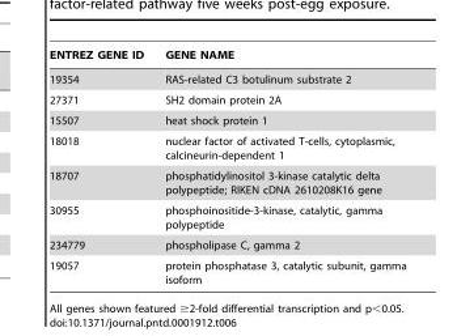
<table><thead><tr><td>ENTREZ GENE ID</td><td>GENE NAME</td></tr></thead><tbody><tr><td>19354</td><td>RAS-related C3 botulinum substrate 2</td></tr><tr><td>27371</td><td>SH2 domain protein 2A</td></tr><tr><td>15507</td><td>heat shock protein 1</td></tr><tr><td>18018</td><td>nuclear factor of activated T-cells, cytoplasmic, calcineurin-dependent 1</td></tr><tr><td>18707</td><td>phosphatidylinositol 3-kinase catalytic delta polypeptide; RIKEN cDNA 2610208K16 gene</td></tr><tr><td>30955</td><td>phosphoinositide-3-kinase, catalytic, gamma polypeptide</td></tr><tr><td>234779</td><td>phospholipase C, gamma 2</td></tr><tr><td>19057</td><td>protein phosphatase 3, catalytic subunit, gamma isoform</td></tr></tbody></table>